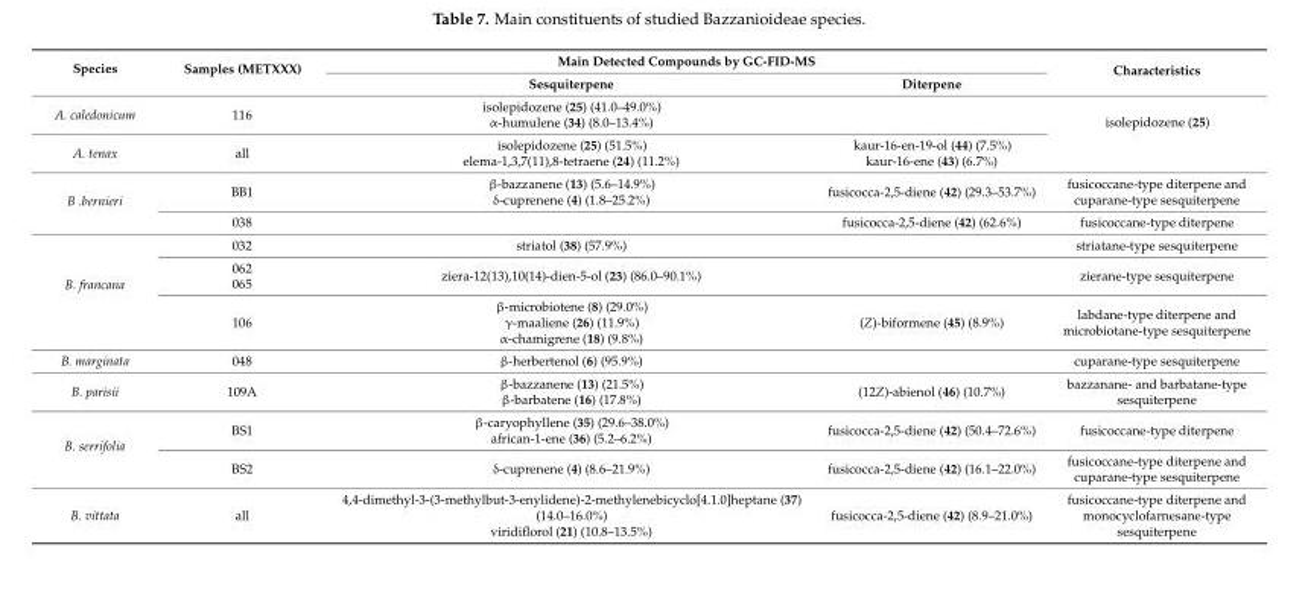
<table><thead><tr><td rowspan="2">Species</td><td rowspan="2">Samples (METXXX)</td><td colspan="2">Main Detected Compounds by GC-FID-MS</td><td rowspan="2">Characteristics</td></tr><tr><td>Sesquiterpene</td><td>Diterpene</td></tr></thead><tbody><tr><td>A. caledonicum</td><td>116</td><td>isolepidozene (25) (41.0–49.0%) α-humulene (34) (8.0–13.4%)</td><td></td><td rowspan="2">isolepidozene (25)</td></tr><tr><td>A. tenax</td><td>all</td><td>isolepidozene (25) (51.5%) elema-1,3,7(11),8-tetraene (24) (11.2%)</td><td>kaur-16-en-19-ol (44) (7.5%) kaur-16-ene (43) (6.7%)</td></tr><tr><td rowspan="2">B .bernieri</td><td>BB1</td><td>β-bazzanene (13) (5.6–14.9%) δ-cuprenene (4) (1.8–25.2%)</td><td>fusicocca-2,5-diene (42) (29.3–53.7%)</td><td>fusicoccane-type diterpene and cuparane-type sesquiterpene</td></tr><tr><td>038</td><td></td><td>fusicocca-2,5-diene (42) (62.6%)</td><td>fusicoccane-type diterpene</td></tr><tr><td rowspan="3">B. francana</td><td>032</td><td>striatol (38) (57.9%)</td><td></td><td>striatane-type sesquiterpene</td></tr><tr><td>062 065</td><td>ziera-12(13),10(14)-dien-5-ol (23) (86.0–90.1%)</td><td></td><td>zierane-type sesquiterpene</td></tr><tr><td>106</td><td>β-microbiotene (8) (29.0%) γ-maaliene (26) (11.9%) α-chamigrene (18) (9.8%)</td><td>(Z)-biformene (45) (8.9%)</td><td>labdane-type diterpene and microbiotane-type sesquiterpene</td></tr><tr><td>B. marginata</td><td>048</td><td>β-herbertenol (6) (95.9%)</td><td></td><td>cuparane-type sesquiterpene</td></tr><tr><td>B. parisii</td><td>109A</td><td>β-bazzanene (13) (21.5%) β-barbatene (16) (17.8%)</td><td>(12Z)-abienol (46) (10.7%)</td><td>bazzanane- and barbatane-type sesquiterpene</td></tr><tr><td rowspan="2">B. serrifolia</td><td>BS1</td><td>β-caryophyllene (35) (29.6–38.0%) african-1-ene (36) (5.2–6.2%)</td><td>fusicocca-2,5-diene (42) (50.4–72.6%)</td><td>fusicoccane-type diterpene</td></tr><tr><td>BS2</td><td>δ-cuprenene (4) (8.6–21.9%)</td><td>fusicocca-2,5-diene (42) (16.1–22.0%)</td><td>fusicoccane-type diterpene and cuparane-type sesquiterpene</td></tr><tr><td>B. vittata</td><td>all</td><td>4,4-dimethyl-3-(3-methylbut-3-enylidene)-2-methylenebicyclo[4.1.0]heptane (37) (14.0–16.0%) viridiflorol (21) (10.8–13.5%)</td><td>fusicocca-2,5-diene (42) (8.9–21.0%)</td><td>fusicoccane-type diterpene and monocyclofarnesane-type sesquiterpene</td></tr></tbody></table>